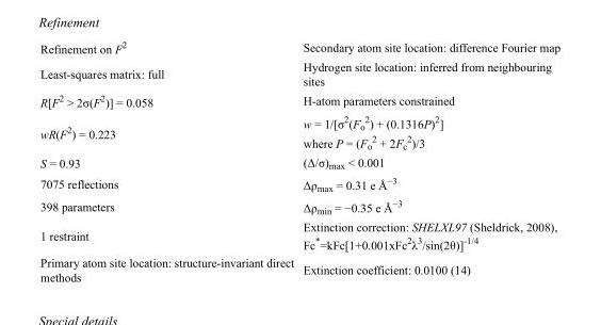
<table><tbody><tr><td>Refinement on F<sup>2</sup></td><td>Secondary atom site location: difference Fourier map</td></tr><tr><td>Least-squares matrix: full</td><td>Hydrogen site location: inferred from neighbouring sites</td></tr><tr><td>R[F<sup>2</sup> &gt; 2σ(F<sup>2</sup>)] = 0.058</td><td>H-atom parameters constrained</td></tr><tr><td>wR(F<sup>2</sup>) = 0.223</td><td>w = 1/[σ<sup>2</sup>(F<sub>o</sub> <sup>2</sup>) + (0.1316P)<sup>2</sup>] where P = (F<sub>o</sub> <sup>2</sup> + 2F<sub>c</sub> <sup>2</sup>)/3</td></tr><tr><td>S = 0.93</td><td>(Δ/σ)<sub>max</sub> &lt; 0.001</td></tr><tr><td>7075 reflections</td><td>Δρ<sub>max</sub> = 0.31 e Å<sup>−3</sup></td></tr><tr><td>398 parameters</td><td>Δρ<sub>min</sub> = −0.35 e Å<sup>−3</sup></td></tr><tr><td>1 restraint</td><td>Extinction correction: SHELXL97 (Sheldrick, 2008), Fc*=kFc[1+0.001xFc<sup>2</sup>λ<sup>3</sup>/sin(2θ)]<sup>-1/4</sup></td></tr><tr><td>Primary atom site location: structure-invariant direct methods</td><td>Extinction coefficient: 0.0100 (14)</td></tr></tbody></table>